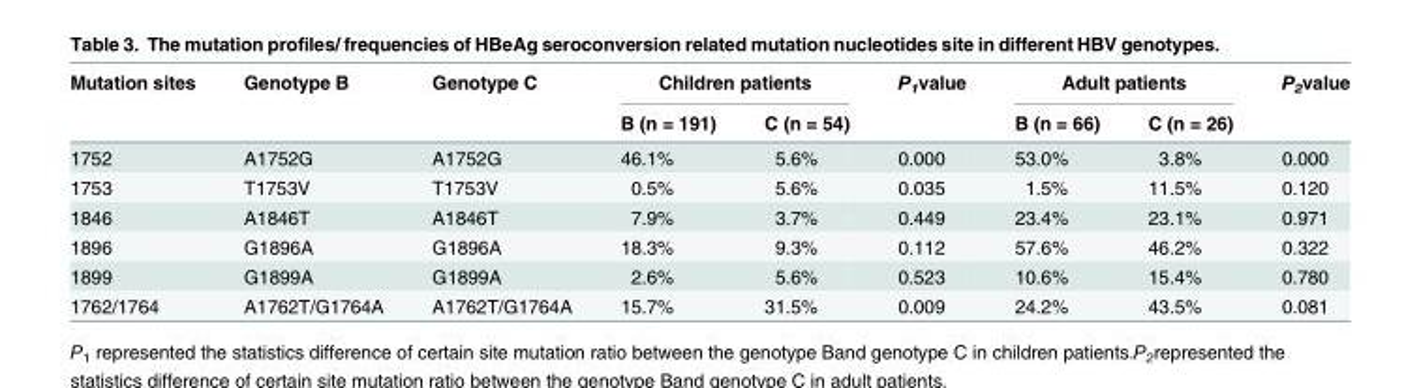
<table><thead><tr><td rowspan="2">Mutation sites</td><td rowspan="2">Genotype B</td><td rowspan="2">Genotype C</td><td colspan="2">Children patients</td><td rowspan="2">P<sub>1</sub>value</td><td colspan="2">Adult patients</td><td rowspan="2">P<sub>2</sub>value</td></tr><tr><td>B (n = 191)</td><td>C (n = 54)</td><td>B (n = 66)</td><td>C (n = 26)</td></tr></thead><tbody><tr><td>1752</td><td>A1752G</td><td>A1752G</td><td>46.1%</td><td>5.6%</td><td>0.000</td><td>53.0%</td><td>3.8%</td><td>0.000</td></tr><tr><td>1753</td><td>T1753V</td><td>T1753V</td><td>0.5%</td><td>5.6%</td><td>0.035</td><td>1.5%</td><td>11.5%</td><td>0.120</td></tr><tr><td>1846</td><td>A1846T</td><td>A1846T</td><td>7.9%</td><td>3.7%</td><td>0.449</td><td>23.4%</td><td>23.1%</td><td>0.971</td></tr><tr><td>1896</td><td>G1896A</td><td>G1896A</td><td>18.3%</td><td>9.3%</td><td>0.112</td><td>57.6%</td><td>46.2%</td><td>0.322</td></tr><tr><td>1899</td><td>G1899A</td><td>G1899A</td><td>2.6%</td><td>5.6%</td><td>0.523</td><td>10.6%</td><td>15.4%</td><td>0.780</td></tr><tr><td>1762/1764</td><td>A1762T/G1764A</td><td>A1762T/G1764A</td><td>15.7%</td><td>31.5%</td><td>0.009</td><td>24.2%</td><td>43.5%</td><td>0.081</td></tr></tbody></table>